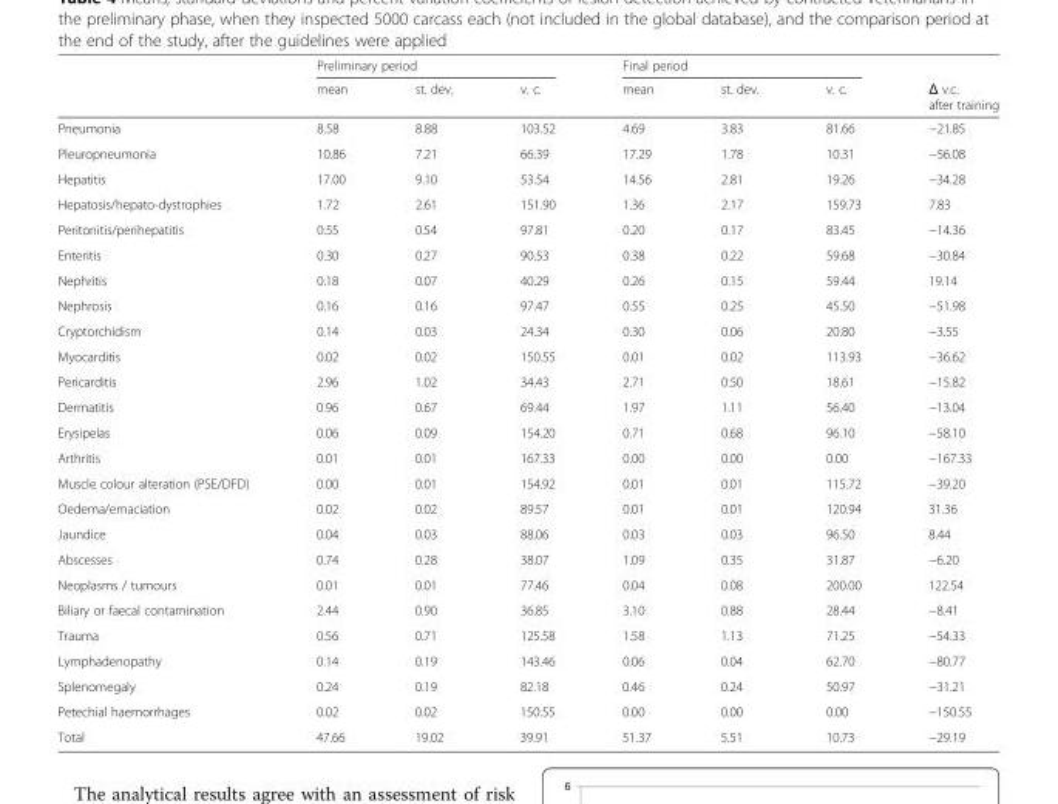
<table><thead><tr><td rowspan="2"></td><td colspan="3">Preliminary period</td><td colspan="3">Final period</td><td rowspan="2">Δ v.c. after training</td></tr><tr><td>mean</td><td>st. dev.</td><td>v. c.</td><td>mean</td><td>st. dev.</td><td>v. c.</td></tr></thead><tbody><tr><td>Pneumonia</td><td>8.58</td><td>8.88</td><td>103.52</td><td>4.69</td><td>3.83</td><td>81.66</td><td>−21.85</td></tr><tr><td>Pleuropneumonia</td><td>10.86</td><td>7.21</td><td>66.39</td><td>17.29</td><td>1.78</td><td>10.31</td><td>−56.08</td></tr><tr><td>Hepatitis</td><td>17.00</td><td>9.10</td><td>53.54</td><td>14.56</td><td>2.81</td><td>19.26</td><td>−34.28</td></tr><tr><td>Hepatosis/hepato-dystrophies</td><td>1.72</td><td>2.61</td><td>151.90</td><td>1.36</td><td>2.17</td><td>159.73</td><td>7.83</td></tr><tr><td>Peritonitis/perihepatitis</td><td>0.55</td><td>0.54</td><td>97.81</td><td>0.20</td><td>0.17</td><td>83.45</td><td>−14.36</td></tr><tr><td>Enteritis</td><td>0.30</td><td>0.27</td><td>90.53</td><td>0.38</td><td>0.22</td><td>59.68</td><td>−30.84</td></tr><tr><td>Nephritis</td><td>0.18</td><td>0.07</td><td>40.29</td><td>0.26</td><td>0.15</td><td>59.44</td><td>19.14</td></tr><tr><td>Nephrosis</td><td>0.16</td><td>0.16</td><td>97.47</td><td>0.55</td><td>0.25</td><td>45.50</td><td>−51.98</td></tr><tr><td>Cryptorchidism</td><td>0.14</td><td>0.03</td><td>24.34</td><td>0.30</td><td>0.06</td><td>20.80</td><td>−3.55</td></tr><tr><td>Myocarditis</td><td>0.02</td><td>0.02</td><td>150.55</td><td>0.01</td><td>0.02</td><td>113.93</td><td>−36.62</td></tr><tr><td>Pericarditis</td><td>2.96</td><td>1.02</td><td>34.43</td><td>2.71</td><td>0.50</td><td>18.61</td><td>−15.82</td></tr><tr><td>Dermatitis</td><td>0.96</td><td>0.67</td><td>69.44</td><td>1.97</td><td>1.11</td><td>56.40</td><td>−13.04</td></tr><tr><td>Erysipelas</td><td>0.06</td><td>0.09</td><td>154.20</td><td>0.71</td><td>0.68</td><td>96.10</td><td>−58.10</td></tr><tr><td>Arthritis</td><td>0.01</td><td>0.01</td><td>167.33</td><td>0.00</td><td>0.00</td><td>0.00</td><td>−167.33</td></tr><tr><td>Muscle colour alteration (PSE/DFD)</td><td>0.00</td><td>0.01</td><td>154.92</td><td>0.01</td><td>0.01</td><td>115.72</td><td>−39.20</td></tr><tr><td>Oedema/emaciation</td><td>0.02</td><td>0.02</td><td>89.57</td><td>0.01</td><td>0.01</td><td>120.94</td><td>31.36</td></tr><tr><td>Jaundice</td><td>0.04</td><td>0.03</td><td>88.06</td><td>0.03</td><td>0.03</td><td>96.50</td><td>8.44</td></tr><tr><td>Abscesses</td><td>0.74</td><td>0.28</td><td>38.07</td><td>1.09</td><td>0.35</td><td>31.87</td><td>−6.20</td></tr><tr><td>Neoplasms / tumours</td><td>0.01</td><td>0.01</td><td>77.46</td><td>0.04</td><td>0.08</td><td>200.00</td><td>122.54</td></tr><tr><td>Biliary or faecal contamination</td><td>2.44</td><td>0.90</td><td>36.85</td><td>3.10</td><td>0.88</td><td>28.44</td><td>−8.41</td></tr><tr><td>Trauma</td><td>0.56</td><td>0.71</td><td>125.58</td><td>1.58</td><td>1.13</td><td>71.25</td><td>−54.33</td></tr><tr><td>Lymphadenopathy</td><td>0.14</td><td>0.19</td><td>143.46</td><td>0.06</td><td>0.04</td><td>62.70</td><td>−80.77</td></tr><tr><td>Splenomegaly</td><td>0.24</td><td>0.19</td><td>82.18</td><td>0.46</td><td>0.24</td><td>50.97</td><td>−31.21</td></tr><tr><td>Petechial haemorrhages</td><td>0.02</td><td>0.02</td><td>150.55</td><td>0.00</td><td>0.00</td><td>0.00</td><td>−150.55</td></tr><tr><td>Total</td><td>47.66</td><td>19.02</td><td>39.91</td><td>51.37</td><td>5.51</td><td>10.73</td><td>−29.19</td></tr></tbody></table>